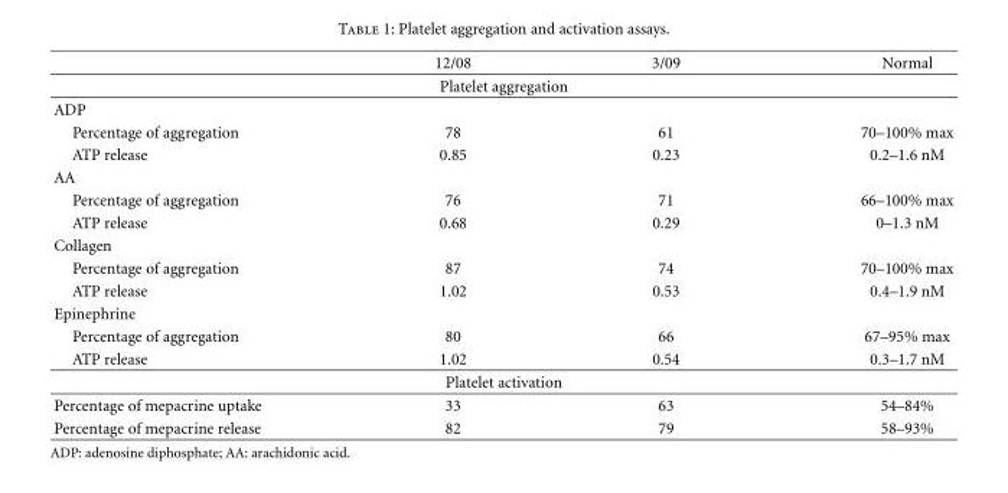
<table><thead><tr><td></td><td>12/08</td><td>3/09</td><td>Normal</td></tr></thead><tbody><tr><td colspan="4">Platelet aggregation</td></tr><tr><td colspan="4">ADP</td></tr><tr><td>Percentage of aggregation</td><td>78</td><td>61</td><td>70–100% max</td></tr><tr><td>ATP release</td><td>0.85</td><td>0.23</td><td>0.2–1.6 nM</td></tr><tr><td colspan="4">AA</td></tr><tr><td>Percentage of aggregation</td><td>76</td><td>71</td><td>66–100% max</td></tr><tr><td>ATP release</td><td>0.68</td><td>0.29</td><td>0–1.3 nM</td></tr><tr><td colspan="4">Collagen</td></tr><tr><td>Percentage of aggregation</td><td>87</td><td>74</td><td>70–100% max</td></tr><tr><td>ATP release</td><td>1.02</td><td>0.53</td><td>0.4–1.9 nM</td></tr><tr><td colspan="4">Epinephrine</td></tr><tr><td>Percentage of aggregation</td><td>80</td><td>66</td><td>67–95% max</td></tr><tr><td>ATP release</td><td>1.02</td><td>0.54</td><td>0.3–1.7 nM</td></tr><tr><td colspan="4">Platelet activation</td></tr><tr><td>Percentage of mepacrine uptake</td><td>33</td><td>63</td><td>54–84%</td></tr><tr><td>Percentage of mepacrine release</td><td>82</td><td>79</td><td>58–93%</td></tr></tbody></table>